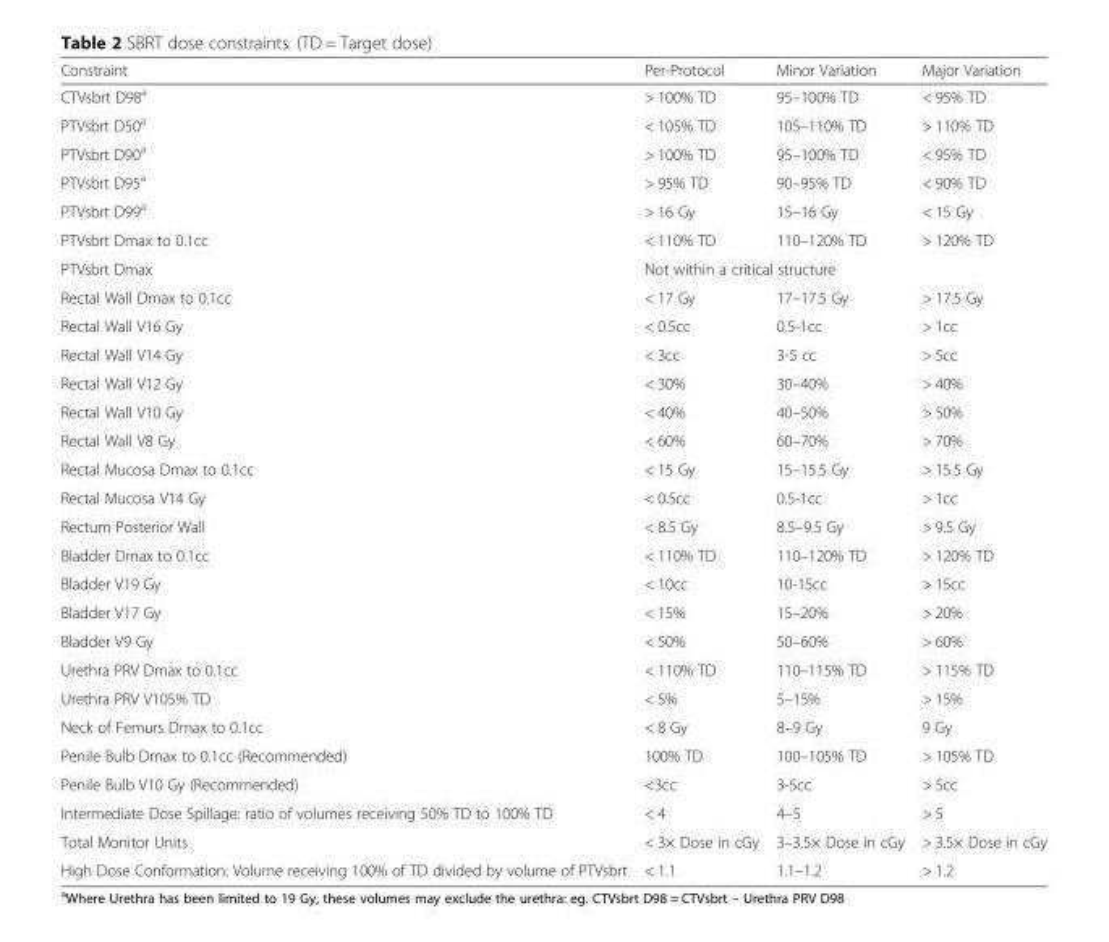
<table><thead><tr><td>Constraint</td><td>Per-Protocol</td><td>Minor Variation</td><td>Major Variation</td></tr></thead><tbody><tr><td>CTVsbrt D98<sup>a</sup></td><td>&gt; 100% TD</td><td>95–100% TD</td><td>&lt; 95% TD</td></tr><tr><td>PTVsbrt D50<sup>a</sup></td><td>&lt; 105% TD</td><td>105–110% TD</td><td>&gt; 110% TD</td></tr><tr><td>PTVsbrt D90<sup>a</sup></td><td>&gt; 100% TD</td><td>95–100% TD</td><td>&lt; 95% TD</td></tr><tr><td>PTVsbrt D95<sup>a</sup></td><td>&gt; 95% TD</td><td>90–95% TD</td><td>&lt; 90% TD</td></tr><tr><td>PTVsbrt D99<sup>a</sup></td><td>&gt; 16 Gy</td><td>15–16 Gy</td><td>&lt; 15 Gy</td></tr><tr><td>PTVsbrt Dmax to 0.1cc</td><td>&lt; 110% TD</td><td>110–120% TD</td><td>&gt; 120% TD</td></tr><tr><td>PTVsbrt Dmax</td><td colspan="3">Not within a critical structure</td></tr><tr><td>Rectal Wall Dmax to 0.1cc</td><td>&lt; 17 Gy</td><td>17–17.5 Gy</td><td>&gt; 17.5 Gy</td></tr><tr><td>Rectal Wall V16 Gy</td><td>&lt; 0.5cc</td><td>0.5-1cc</td><td>&gt; 1cc</td></tr><tr><td>Rectal Wall V14 Gy</td><td>&lt; 3cc</td><td>3-5 cc</td><td>&gt; 5cc</td></tr><tr><td>Rectal Wall V12 Gy</td><td>&lt; 30%</td><td>30–40%</td><td>&gt; 40%</td></tr><tr><td>Rectal Wall V10 Gy</td><td>&lt; 40%</td><td>40–50%</td><td>&gt; 50%</td></tr><tr><td>Rectal Wall V8 Gy</td><td>&lt; 60%</td><td>60–70%</td><td>&gt; 70%</td></tr><tr><td>Rectal Mucosa Dmax to 0.1cc</td><td>&lt; 15 Gy</td><td>15–15.5 Gy</td><td>&gt; 15.5 Gy</td></tr><tr><td>Rectal Mucosa V14 Gy</td><td>&lt; 0.5cc</td><td>0.5-1cc</td><td>&gt; 1cc</td></tr><tr><td>Rectum Posterior Wall</td><td>&lt; 8.5 Gy</td><td>8.5–9.5 Gy</td><td>&gt; 9.5 Gy</td></tr><tr><td>Bladder Dmax to 0.1cc</td><td>&lt; 110% TD</td><td>110–120% TD</td><td>&gt; 120% TD</td></tr><tr><td>Bladder V19 Gy</td><td>&lt; 10cc</td><td>10-15cc</td><td>&gt; 15cc</td></tr><tr><td>Bladder V17 Gy</td><td>&lt; 15%</td><td>15–20%</td><td>&gt; 20%</td></tr><tr><td>Bladder V9 Gy</td><td>&lt; 50%</td><td>50–60%</td><td>&gt; 60%</td></tr><tr><td>Urethra PRV Dmax to 0.1cc</td><td>&lt; 110% TD</td><td>110–115% TD</td><td>&gt; 115% TD</td></tr><tr><td>Urethra PRV V105% TD</td><td>&lt; 5%</td><td>5–15%</td><td>&gt; 15%</td></tr><tr><td>Neck of Femurs Dmax to 0.1cc</td><td>&lt; 8 Gy</td><td>8–9 Gy</td><td>9 Gy</td></tr><tr><td>Penile Bulb Dmax to 0.1cc (Recommended)</td><td>100% TD</td><td>100–105% TD</td><td>&gt; 105% TD</td></tr><tr><td>Penile Bulb V10 Gy (Recommended)</td><td>&lt;3cc</td><td>3-5cc</td><td>&gt; 5cc</td></tr><tr><td>Intermediate Dose Spillage: ratio of volumes receiving 50% TD to 100% TD</td><td>&lt; 4</td><td>4–5</td><td>&gt; 5</td></tr><tr><td>Total Monitor Units</td><td>&lt; 3× Dose in cGy</td><td>3–3.5× Dose in cGy</td><td>&gt; 3.5× Dose in cGy</td></tr><tr><td>High Dose Conformation: Volume receiving 100% of TD divided by volume of PTVsbrt</td><td>&lt; 1.1</td><td>1.1–1.2</td><td>&gt; 1.2</td></tr></tbody></table>